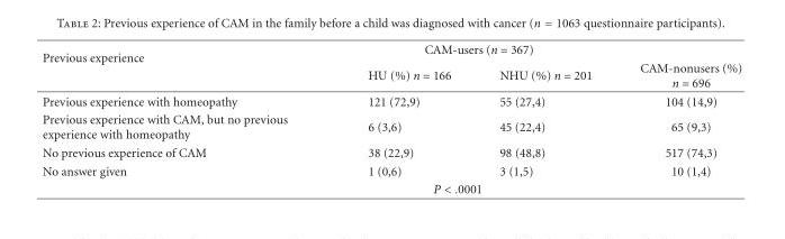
<table><thead><tr><td rowspan="2">Previous experience</td><td colspan="2">CAM-users (n = 367)</td><td rowspan="2">CAM-nonusers (%) n = 696</td></tr><tr><td>HU (%) n = 166</td><td>NHU (%) n = 201</td></tr></thead><tbody><tr><td>Previous experience with homeopathy</td><td>121 (72,9)</td><td>55 (27,4)</td><td>104 (14,9)</td></tr><tr><td>Previous experience with CAM, but no previous experience with homeopathy</td><td>6 (3,6)</td><td>45 (22,4)</td><td>65 (9,3)</td></tr><tr><td>No previous experience of CAM</td><td>38 (22,9)</td><td>98 (48,8)</td><td>517 (74,3)</td></tr><tr><td rowspan="2">No answer given</td><td>1 (0,6)</td><td>3 (1,5)</td><td>10 (1,4)</td></tr><tr><td colspan="2">P &lt; .0001</td><td></td></tr></tbody></table>